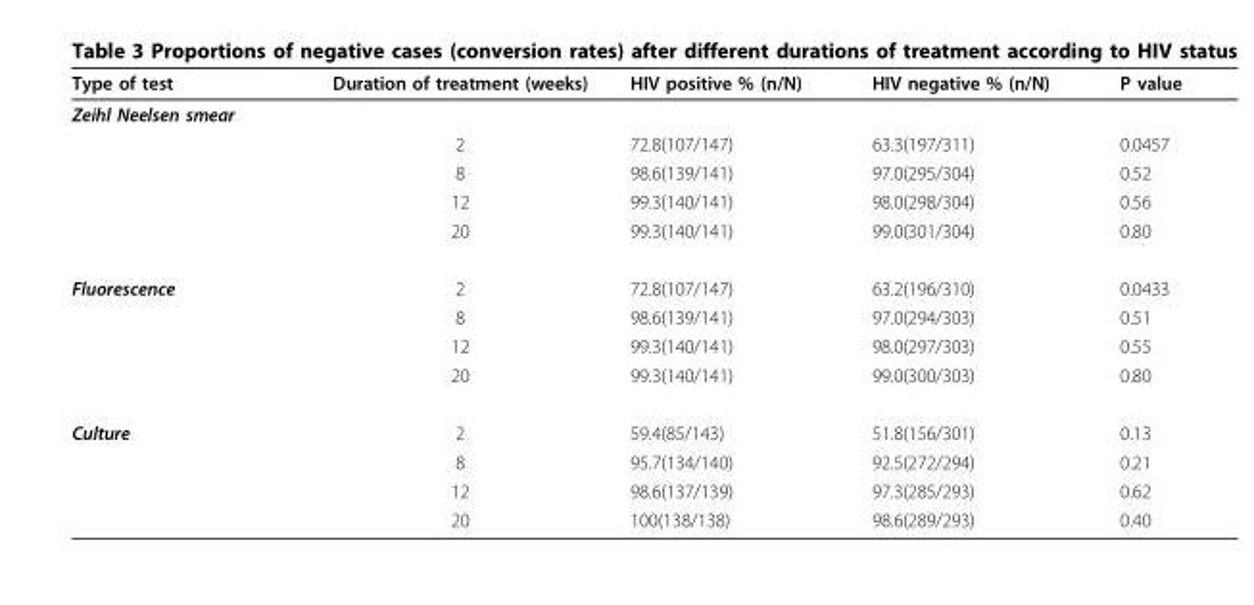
<table><thead><tr><td>Type of test</td><td>Duration of treatment (weeks)</td><td>HIV positive % (n/N)</td><td>HIV negative % (n/N)</td><td>P value</td></tr></thead><tbody><tr><td colspan="5">Zeihl Neelsen smear</td></tr><tr><td></td><td>2</td><td>72.8(107/147)</td><td>63.3(197/311)</td><td>0.0457</td></tr><tr><td></td><td>8</td><td>98.6(139/141)</td><td>97.0(295/304)</td><td>0.52</td></tr><tr><td></td><td>12</td><td>99.3(140/141)</td><td>98.0(298/304)</td><td>0.56</td></tr><tr><td></td><td>20</td><td>99.3(140/141)</td><td>99.0(301/304)</td><td>0.80</td></tr><tr><td rowspan="4">Fluorescence</td><td>2</td><td>72.8(107/147)</td><td>63.2(196/310)</td><td>0.0433</td></tr><tr><td>8</td><td>98.6(139/141)</td><td>97.0(294/303)</td><td>0.51</td></tr><tr><td>12</td><td>99.3(140/141)</td><td>98.0(297/303)</td><td>0.55</td></tr><tr><td>20</td><td>99.3(140/141)</td><td>99.0(300/303)</td><td>0.80</td></tr><tr><td rowspan="4">Culture</td><td>2</td><td>59.4(85/143)</td><td>51.8(156/301)</td><td>0.13</td></tr><tr><td>8</td><td>95.7(134/140)</td><td>92.5(272/294)</td><td>0.21</td></tr><tr><td>12</td><td>98.6(137/139)</td><td>97.3(285/293)</td><td>0.62</td></tr><tr><td>20</td><td>100(138/138)</td><td>98.6(289/293)</td><td>0.40</td></tr></tbody></table>